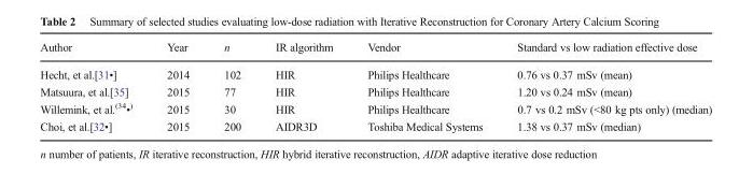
<table><thead><tr><td>Author</td><td>Year</td><td>n</td><td>IR algorithm</td><td>Vendor</td><td>Standard vs low radiation effective dose</td></tr></thead><tbody><tr><td>Hecht, et al.[31•]</td><td>2014</td><td>102</td><td>HIR</td><td>Philips Healthcare</td><td>0.76 vs 0.37 mSv (mean)</td></tr><tr><td>Matsuura, et al.[35]</td><td>2015</td><td>77</td><td>HIR</td><td>Philips Healthcare</td><td>1.20 vs 0.24 mSv (mean)</td></tr><tr><td>Willemink, et al.<sup>(34</sup>•<sup>)</sup></td><td>2015</td><td>30</td><td>HIR</td><td>Philips Healthcare</td><td>0.7 vs 0.2 mSv (&lt;80 kg pts only) (median)</td></tr><tr><td>Choi, et al.[32•]</td><td>2015</td><td>200</td><td>AIDR3D</td><td>Toshiba Medical Systems</td><td>1.38 vs 0.37 mSv (median)</td></tr></tbody></table>